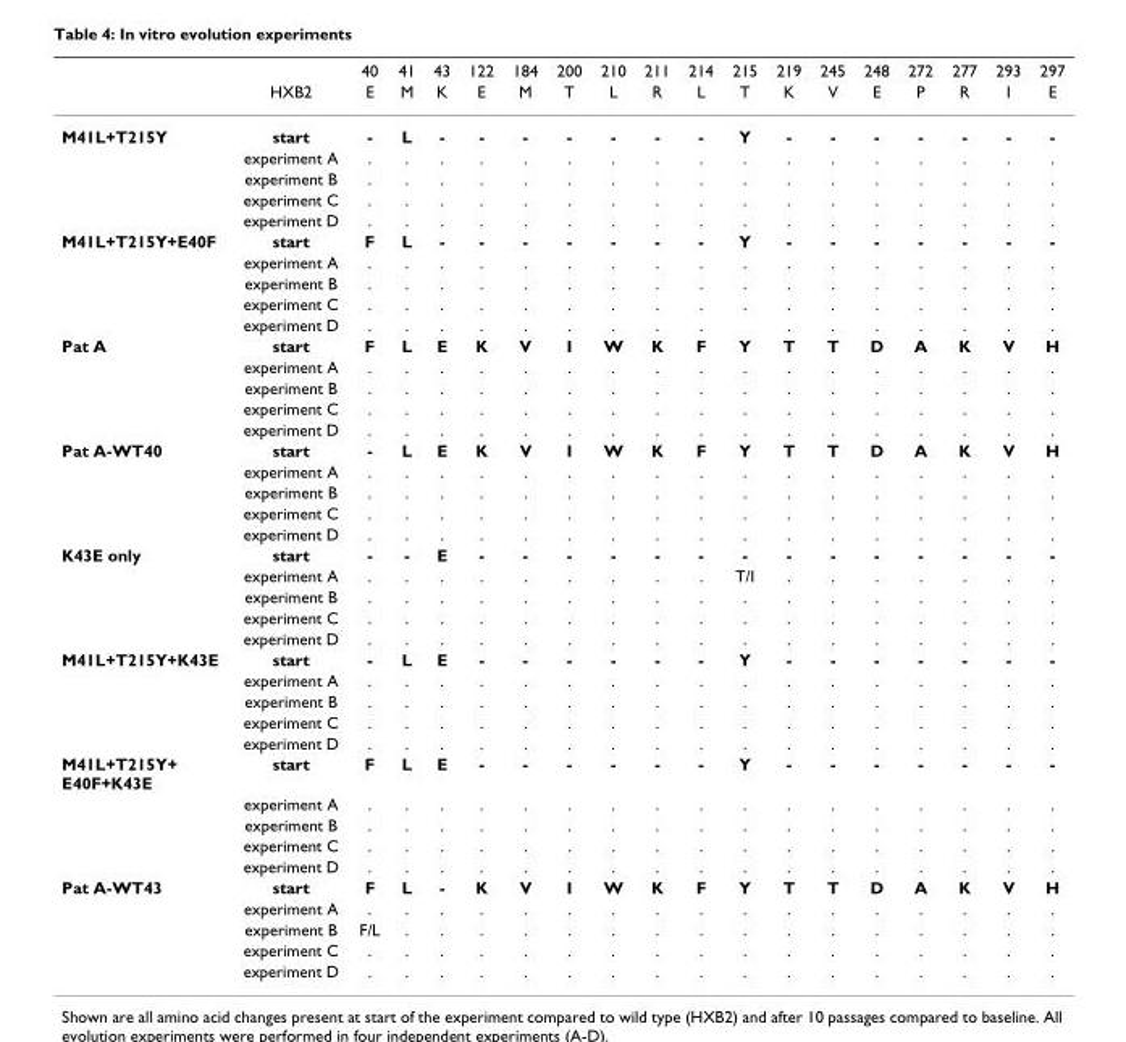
<table><thead><tr><td rowspan="2"></td><td rowspan="2">HXB2</td><td rowspan="2">40 E</td><td rowspan="2">41 M</td><td rowspan="2">43 K</td><td rowspan="2">122 E</td><td rowspan="2">184 M</td><td rowspan="2">200 T</td><td rowspan="2">210 L</td><td rowspan="2">211 R</td><td rowspan="2">214 L</td><td rowspan="2">215 T</td><td rowspan="2">219 K</td><td rowspan="2">245 V</td><td rowspan="2">248 E</td><td rowspan="2">272 P</td><td rowspan="2">277 R</td><td rowspan="2">293 I</td><td rowspan="2">297 E</td></tr><tr></tr></thead><tbody><tr><td rowspan="5">M41L+T215Y</td><td>start</td><td>-</td><td>L</td><td>-</td><td>-</td><td>-</td><td>-</td><td>-</td><td>-</td><td>-</td><td>Y</td><td>-</td><td>-</td><td>-</td><td>-</td><td>-</td><td>-</td><td>-</td></tr><tr><td>experiment A</td><td>.</td><td>.</td><td>.</td><td>.</td><td>.</td><td>.</td><td>.</td><td>.</td><td>.</td><td>.</td><td>.</td><td>.</td><td>.</td><td>.</td><td>.</td><td>.</td><td>.</td></tr><tr><td>experiment B</td><td>.</td><td>.</td><td>.</td><td>.</td><td>.</td><td>.</td><td>.</td><td>.</td><td>.</td><td>.</td><td>.</td><td>.</td><td>.</td><td>.</td><td>.</td><td>.</td><td>.</td></tr><tr><td>experiment C</td><td>.</td><td>.</td><td>.</td><td>.</td><td>.</td><td>.</td><td>.</td><td>.</td><td>.</td><td>.</td><td>.</td><td>.</td><td>.</td><td>.</td><td>.</td><td>.</td><td>.</td></tr><tr><td>experiment D</td><td>.</td><td>.</td><td>.</td><td>.</td><td>.</td><td>.</td><td>.</td><td>.</td><td>.</td><td>.</td><td>.</td><td>.</td><td>.</td><td>.</td><td>.</td><td>.</td><td>.</td></tr><tr><td rowspan="5">M41L+T215Y+E40F</td><td>start</td><td>F</td><td>L</td><td>-</td><td>-</td><td>-</td><td>-</td><td>-</td><td>-</td><td>-</td><td>Y</td><td>-</td><td>-</td><td>-</td><td>-</td><td>-</td><td>-</td><td>-</td></tr><tr><td>experiment A</td><td>.</td><td>.</td><td>.</td><td>.</td><td>.</td><td>.</td><td>.</td><td>.</td><td>.</td><td>.</td><td>.</td><td>.</td><td>.</td><td>.</td><td>.</td><td>.</td><td>.</td></tr><tr><td>experiment B</td><td>.</td><td>.</td><td>.</td><td>.</td><td>.</td><td>.</td><td>.</td><td>.</td><td>.</td><td>.</td><td>.</td><td>.</td><td>.</td><td>.</td><td>.</td><td>.</td><td>.</td></tr><tr><td>experiment C</td><td>.</td><td>.</td><td>.</td><td>.</td><td>.</td><td>.</td><td>.</td><td>.</td><td>.</td><td>.</td><td>.</td><td>.</td><td>.</td><td>.</td><td>.</td><td>.</td><td>.</td></tr><tr><td>experiment D</td><td>.</td><td>.</td><td>.</td><td>.</td><td>.</td><td>.</td><td>.</td><td>.</td><td>.</td><td></td><td>.</td><td>.</td><td>.</td><td>.</td><td>.</td><td>.</td><td>.</td></tr><tr><td rowspan="5">Pat A</td><td>start</td><td>F</td><td>L</td><td>E</td><td>K</td><td>V</td><td>I</td><td>W</td><td>K</td><td>F</td><td>Y</td><td>T</td><td>T</td><td>D</td><td>A</td><td>K</td><td>V</td><td>H</td></tr><tr><td>experiment A</td><td>.</td><td>.</td><td>.</td><td>.</td><td>.</td><td>.</td><td>.</td><td>.</td><td>.</td><td>.</td><td>.</td><td>.</td><td>.</td><td>.</td><td>.</td><td>.</td><td>.</td></tr><tr><td>experiment B</td><td>.</td><td>.</td><td>.</td><td>.</td><td>.</td><td>.</td><td>.</td><td>.</td><td>.</td><td>.</td><td>.</td><td>.</td><td>.</td><td>.</td><td>.</td><td>.</td><td>.</td></tr><tr><td>experiment C</td><td>.</td><td>.</td><td>.</td><td>.</td><td>.</td><td>.</td><td>.</td><td>.</td><td>.</td><td>.</td><td>.</td><td>.</td><td>.</td><td>.</td><td>.</td><td>.</td><td>.</td></tr><tr><td>experiment D</td><td>.</td><td>.</td><td>.</td><td>.</td><td>.</td><td>.</td><td>.</td><td>.</td><td>.</td><td>.</td><td>.</td><td>.</td><td>.</td><td>.</td><td>.</td><td>.</td><td>.</td></tr><tr><td rowspan="5">Pat A-WT40</td><td>start</td><td>-</td><td>L</td><td>E</td><td>K</td><td>V</td><td>I</td><td>W</td><td>K</td><td>F</td><td>Y</td><td>T</td><td>T</td><td>D</td><td>A</td><td>K</td><td>V</td><td>H</td></tr><tr><td>experiment A</td><td>.</td><td>.</td><td>.</td><td>.</td><td>.</td><td>.</td><td>.</td><td>.</td><td>.</td><td>.</td><td>.</td><td>.</td><td>.</td><td>.</td><td>.</td><td>.</td><td>.</td></tr><tr><td>experiment B</td><td>.</td><td>.</td><td>.</td><td>.</td><td>.</td><td>.</td><td>.</td><td>.</td><td>.</td><td>.</td><td>.</td><td>.</td><td>.</td><td>.</td><td>.</td><td>.</td><td>.</td></tr><tr><td>experiment C</td><td>.</td><td>.</td><td>.</td><td>.</td><td>.</td><td>.</td><td>.</td><td>.</td><td>.</td><td>.</td><td>.</td><td>.</td><td>.</td><td>.</td><td>.</td><td>.</td><td>.</td></tr><tr><td>experiment D</td><td>.</td><td>.</td><td>.</td><td>.</td><td>.</td><td>.</td><td>.</td><td>.</td><td>.</td><td>.</td><td>.</td><td>.</td><td>.</td><td>.</td><td>.</td><td>.</td><td>.</td></tr><tr><td rowspan="5">K43E only</td><td>start</td><td>-</td><td>-</td><td>E</td><td>-</td><td>-</td><td>-</td><td>-</td><td>-</td><td>-</td><td>-</td><td>-</td><td>-</td><td>-</td><td>-</td><td>-</td><td>-</td><td>-</td></tr><tr><td>experiment A</td><td>.</td><td>.</td><td>.</td><td>.</td><td>.</td><td>.</td><td>.</td><td>.</td><td>.</td><td>T/I</td><td>.</td><td>.</td><td>.</td><td>.</td><td>.</td><td>.</td><td>.</td></tr><tr><td>experiment B</td><td>.</td><td>.</td><td>.</td><td>.</td><td>.</td><td>.</td><td>.</td><td>.</td><td>.</td><td>.</td><td>.</td><td>.</td><td>.</td><td>.</td><td>.</td><td>.</td><td>.</td></tr><tr><td>experiment C</td><td>.</td><td>.</td><td>.</td><td>.</td><td>.</td><td>.</td><td>.</td><td>.</td><td>.</td><td>.</td><td>.</td><td>.</td><td>.</td><td>.</td><td>.</td><td>.</td><td>.</td></tr><tr><td>experiment D</td><td>.</td><td>.</td><td>.</td><td>.</td><td>.</td><td>.</td><td>.</td><td>.</td><td>.</td><td>.</td><td>.</td><td>.</td><td>.</td><td>.</td><td>.</td><td>.</td><td>.</td></tr><tr><td rowspan="5">M41L+T215Y+K43E</td><td>start</td><td>-</td><td>L</td><td>E</td><td>-</td><td>-</td><td>-</td><td>-</td><td>-</td><td>-</td><td>Y</td><td>-</td><td>-</td><td>-</td><td>-</td><td>-</td><td>-</td><td>-</td></tr><tr><td>experiment A</td><td>.</td><td>.</td><td>.</td><td>.</td><td>.</td><td>.</td><td>.</td><td>.</td><td>.</td><td>.</td><td>.</td><td>.</td><td>.</td><td>.</td><td>.</td><td>.</td><td>.</td></tr><tr><td>experiment B</td><td>.</td><td>.</td><td>.</td><td>.</td><td>.</td><td>.</td><td>.</td><td>.</td><td>.</td><td>.</td><td>.</td><td>.</td><td>.</td><td>.</td><td>.</td><td>.</td><td>.</td></tr><tr><td>experiment C</td><td>.</td><td>.</td><td>.</td><td>.</td><td>.</td><td>.</td><td>.</td><td>.</td><td>.</td><td>.</td><td>.</td><td>.</td><td>.</td><td>.</td><td>.</td><td>.</td><td>.</td></tr><tr><td>experiment D</td><td>.</td><td>.</td><td>.</td><td>.</td><td>.</td><td>.</td><td>.</td><td>.</td><td>.</td><td>.</td><td>.</td><td>.</td><td>.</td><td>.</td><td>.</td><td>.</td><td>.</td></tr><tr><td rowspan="5">M41L+T215Y+ E40F+K43E</td><td>start</td><td>F</td><td>L</td><td>E</td><td>-</td><td>-</td><td>-</td><td>-</td><td>-</td><td>-</td><td>Y</td><td>-</td><td>-</td><td>-</td><td>-</td><td>-</td><td>-</td><td>-</td></tr><tr><td>experiment A</td><td>.</td><td>.</td><td>.</td><td>.</td><td>.</td><td>.</td><td>.</td><td>.</td><td>.</td><td>.</td><td>.</td><td>.</td><td>.</td><td>.</td><td>.</td><td>.</td><td>.</td></tr><tr><td>experiment B</td><td>.</td><td>.</td><td>.</td><td>.</td><td>.</td><td>.</td><td>.</td><td>.</td><td>.</td><td>.</td><td>.</td><td>.</td><td>.</td><td>.</td><td>.</td><td>.</td><td>.</td></tr><tr><td>experiment C</td><td>.</td><td>.</td><td>.</td><td>.</td><td>.</td><td>.</td><td>.</td><td>.</td><td>.</td><td>.</td><td>.</td><td>.</td><td>.</td><td>.</td><td>.</td><td>.</td><td>.</td></tr><tr><td>experiment D</td><td>.</td><td>.</td><td>.</td><td>.</td><td>.</td><td>.</td><td>.</td><td>.</td><td>.</td><td>.</td><td>.</td><td>.</td><td>.</td><td>.</td><td>.</td><td>.</td><td>.</td></tr><tr><td rowspan="5">Pat A-WT43</td><td>start</td><td>F</td><td>L</td><td>-</td><td>K</td><td>V</td><td>I</td><td>W</td><td>K</td><td>F</td><td>Y</td><td>T</td><td>T</td><td>D</td><td>A</td><td>K</td><td>V</td><td>H</td></tr><tr><td>experiment A</td><td>.</td><td>.</td><td>.</td><td>.</td><td>.</td><td>.</td><td>.</td><td>.</td><td>.</td><td>.</td><td>.</td><td>.</td><td>.</td><td>.</td><td>.</td><td>.</td><td>.</td></tr><tr><td>experiment B</td><td>F/L</td><td>.</td><td>.</td><td>.</td><td>.</td><td>.</td><td>.</td><td>.</td><td>.</td><td>.</td><td>.</td><td>.</td><td>.</td><td>.</td><td>.</td><td>.</td><td>.</td></tr><tr><td>experiment C</td><td>.</td><td>.</td><td>.</td><td>.</td><td>.</td><td>.</td><td>.</td><td>.</td><td>.</td><td>.</td><td>.</td><td>.</td><td>.</td><td>.</td><td>.</td><td>.</td><td>.</td></tr><tr><td>experiment D</td><td>.</td><td>.</td><td>.</td><td>.</td><td>.</td><td>.</td><td>.</td><td>.</td><td>.</td><td>.</td><td>.</td><td>.</td><td>.</td><td>.</td><td>.</td><td>.</td><td>.</td></tr></tbody></table>